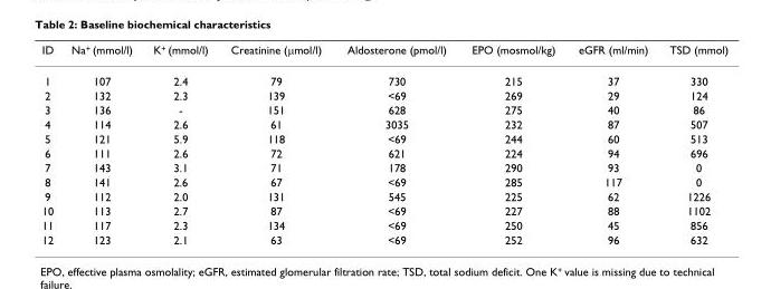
<table><thead><tr><td>ID</td><td>Na<sup>+</sup> (mmol/l)</td><td>K<sup>+</sup> (mmol/l)</td><td>Creatinine (μmol/l)</td><td>Aldosterone (pmol/l)</td><td>EPO (mosmol/kg)</td><td>eGFR (ml/min)</td><td>TSD (mmol)</td></tr></thead><tbody><tr><td>1</td><td>107</td><td>2.4</td><td>79</td><td>730</td><td>215</td><td>37</td><td>330</td></tr><tr><td>2</td><td>132</td><td>2.3</td><td>139</td><td>&lt;69</td><td>269</td><td>29</td><td>124</td></tr><tr><td>3</td><td>136</td><td>-</td><td>151</td><td>628</td><td>275</td><td>40</td><td>86</td></tr><tr><td>4</td><td>114</td><td>2.6</td><td>61</td><td>3035</td><td>232</td><td>87</td><td>507</td></tr><tr><td>5</td><td>121</td><td>5.9</td><td>118</td><td>&lt;69</td><td>244</td><td>60</td><td>513</td></tr><tr><td>6</td><td>111</td><td>2.6</td><td>72</td><td>621</td><td>224</td><td>94</td><td>696</td></tr><tr><td>7</td><td>143</td><td>3.1</td><td>71</td><td>178</td><td>290</td><td>93</td><td>0</td></tr><tr><td>8</td><td>141</td><td>2.6</td><td>67</td><td>&lt;69</td><td>285</td><td>117</td><td>0</td></tr><tr><td>9</td><td>112</td><td>2.0</td><td>131</td><td>545</td><td>225</td><td>62</td><td>1226</td></tr><tr><td>10</td><td>113</td><td>2.7</td><td>87</td><td>&lt;69</td><td>227</td><td>88</td><td>1102</td></tr><tr><td>11</td><td>117</td><td>2.3</td><td>134</td><td>&lt;69</td><td>250</td><td>45</td><td>856</td></tr><tr><td>12</td><td>123</td><td>2.1</td><td>63</td><td>&lt;69</td><td>252</td><td>96</td><td>632</td></tr></tbody></table>